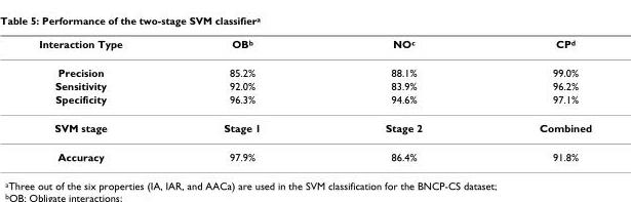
<table><thead><tr><td>Interaction Type</td><td>OBb</td><td>NOc</td><td>CPd</td></tr></thead><tbody><tr><td>Precision</td><td>85.2%</td><td>88.1%</td><td>99.0%</td></tr><tr><td>Sensitivity</td><td>92.0%</td><td>83.9%</td><td>96.2%</td></tr><tr><td>Specificity</td><td>96.3%</td><td>94.6%</td><td>97.1%</td></tr><tr><td>SVM stage</td><td>Stage 1</td><td>Stage 2</td><td>Combined</td></tr><tr><td>Accuracy</td><td>97.9%</td><td>86.4%</td><td>91.8%</td></tr></tbody></table>